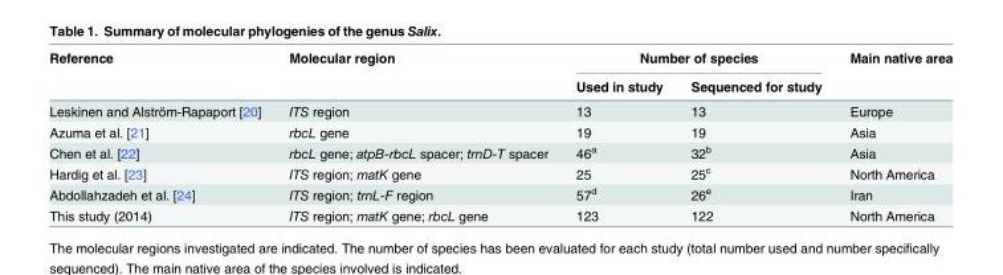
<table><thead><tr><td rowspan="2">Reference</td><td rowspan="2">Molecular region</td><td colspan="2">Number of species</td><td rowspan="2">Main native area</td></tr><tr><td>Used in study</td><td>Sequenced for study</td></tr></thead><tbody><tr><td>Leskinen and Alström-Rapaport [20]</td><td>ITS region</td><td>13</td><td>13</td><td>Europe</td></tr><tr><td>Azuma et al. [21]</td><td>rbcL gene</td><td>19</td><td>19</td><td>Asia</td></tr><tr><td>Chen et al. [22]</td><td>rbcL gene; atpB-rbcL spacer; trnD-T spacer</td><td>46<sup>a</sup></td><td>32<sup>b</sup></td><td>Asia</td></tr><tr><td>Hardig et al. [23]</td><td>ITS region; matK gene</td><td>25</td><td>25<sup>c</sup></td><td>North America</td></tr><tr><td>Abdollahzadeh et al. [24]</td><td>ITS region; trnL-F region</td><td>57<sup>d</sup></td><td>26<sup>e</sup></td><td>Iran</td></tr><tr><td>This study (2014)</td><td>ITS region; matK gene; rbcL gene</td><td>123</td><td>122</td><td>North America</td></tr></tbody></table>